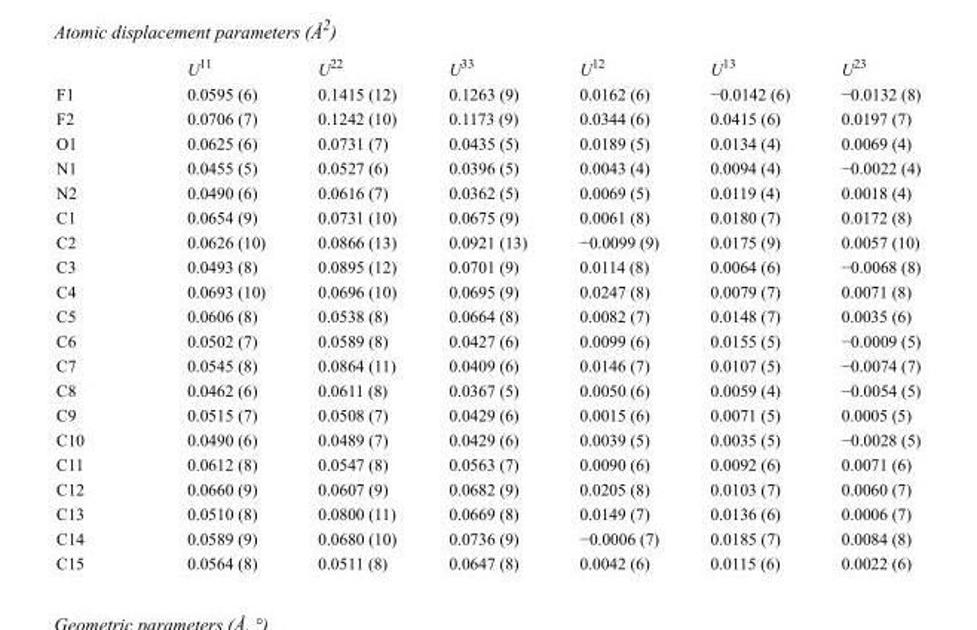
<table><thead><tr><td></td><td>U<sup>11</sup></td><td>U<sup>22</sup></td><td>U<sup>33</sup></td><td>U<sup>12</sup></td><td>U<sup>13</sup></td><td>U<sup>23</sup></td></tr></thead><tbody><tr><td>F1</td><td>0.0595 (6)</td><td>0.1415 (12)</td><td>0.1263 (9)</td><td>0.0162 (6)</td><td>−0.0142 (6)</td><td>−0.0132 (8)</td></tr><tr><td>F2</td><td>0.0706 (7)</td><td>0.1242 (10)</td><td>0.1173 (9)</td><td>0.0344 (6)</td><td>0.0415 (6)</td><td>0.0197 (7)</td></tr><tr><td>O1</td><td>0.0625 (6)</td><td>0.0731 (7)</td><td>0.0435 (5)</td><td>0.0189 (5)</td><td>0.0134 (4)</td><td>0.0069 (4)</td></tr><tr><td>N1</td><td>0.0455 (5)</td><td>0.0527 (6)</td><td>0.0396 (5)</td><td>0.0043 (4)</td><td>0.0094 (4)</td><td>−0.0022 (4)</td></tr><tr><td>N2</td><td>0.0490 (6)</td><td>0.0616 (7)</td><td>0.0362 (5)</td><td>0.0069 (5)</td><td>0.0119 (4)</td><td>0.0018 (4)</td></tr><tr><td>C1</td><td>0.0654 (9)</td><td>0.0731 (10)</td><td>0.0675 (9)</td><td>0.0061 (8)</td><td>0.0180 (7)</td><td>0.0172 (8)</td></tr><tr><td>C2</td><td>0.0626 (10)</td><td>0.0866 (13)</td><td>0.0921 (13)</td><td>−0.0099 (9)</td><td>0.0175 (9)</td><td>0.0057 (10)</td></tr><tr><td>C3</td><td>0.0493 (8)</td><td>0.0895 (12)</td><td>0.0701 (9)</td><td>0.0114 (8)</td><td>0.0064 (6)</td><td>−0.0068 (8)</td></tr><tr><td>C4</td><td>0.0693 (10)</td><td>0.0696 (10)</td><td>0.0695 (9)</td><td>0.0247 (8)</td><td>0.0079 (7)</td><td>0.0071 (8)</td></tr><tr><td>C5</td><td>0.0606 (8)</td><td>0.0538 (8)</td><td>0.0664 (8)</td><td>0.0082 (7)</td><td>0.0148 (7)</td><td>0.0035 (6)</td></tr><tr><td>C6</td><td>0.0502 (7)</td><td>0.0589 (8)</td><td>0.0427 (6)</td><td>0.0099 (6)</td><td>0.0155 (5)</td><td>−0.0009 (5)</td></tr><tr><td>C7</td><td>0.0545 (8)</td><td>0.0864 (11)</td><td>0.0409 (6)</td><td>0.0146 (7)</td><td>0.0107 (5)</td><td>−0.0074 (7)</td></tr><tr><td>C8</td><td>0.0462 (6)</td><td>0.0611 (8)</td><td>0.0367 (5)</td><td>0.0050 (6)</td><td>0.0059 (4)</td><td>−0.0054 (5)</td></tr><tr><td>C9</td><td>0.0515 (7)</td><td>0.0508 (7)</td><td>0.0429 (6)</td><td>0.0015 (6)</td><td>0.0071 (5)</td><td>0.0005 (5)</td></tr><tr><td>C10</td><td>0.0490 (6)</td><td>0.0489 (7)</td><td>0.0429 (6)</td><td>0.0039 (5)</td><td>0.0035 (5)</td><td>−0.0028 (5)</td></tr><tr><td>C11</td><td>0.0612 (8)</td><td>0.0547 (8)</td><td>0.0563 (7)</td><td>0.0090 (6)</td><td>0.0092 (6)</td><td>0.0071 (6)</td></tr><tr><td>C12</td><td>0.0660 (9)</td><td>0.0607 (9)</td><td>0.0682 (9)</td><td>0.0205 (8)</td><td>0.0103 (7)</td><td>0.0060 (7)</td></tr><tr><td>C13</td><td>0.0510 (8)</td><td>0.0800 (11)</td><td>0.0669 (8)</td><td>0.0149 (7)</td><td>0.0136 (6)</td><td>0.0006 (7)</td></tr><tr><td>C14</td><td>0.0589 (9)</td><td>0.0680 (10)</td><td>0.0736 (9)</td><td>−0.0006 (7)</td><td>0.0185 (7)</td><td>0.0084 (8)</td></tr><tr><td>C15</td><td>0.0564 (8)</td><td>0.0511 (8)</td><td>0.0647 (8)</td><td>0.0042 (6)</td><td>0.0115 (6)</td><td>0.0022 (6)</td></tr></tbody></table>